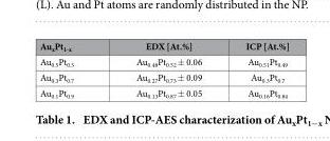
<table><thead><tr><td>Au<sub>x</sub>Pt<sub>1-x</sub></td><td>EDX [At.%]</td><td>ICP [At.%]</td></tr></thead><tbody><tr><td>Au<sub>0.5</sub>Pt<sub>0.5</sub></td><td>Au<sub>0.48</sub>Pt<sub>0.52</sub> ± 0.06</td><td>Au<sub>0.51</sub>Pt<sub>0.49</sub></td></tr><tr><td>Au<sub>0.3</sub>Pt<sub>0.7</sub></td><td>Au<sub>0.27</sub>Pt<sub>0.73</sub> ± 0.09</td><td>Au<sub>0.3</sub>Pt<sub>0.7</sub></td></tr><tr><td>Au<sub>0.1</sub>Pt<sub>0.9</sub></td><td>Au<sub>0.13</sub>Pt<sub>0.87</sub> ± 0.05</td><td>Au<sub>0.16</sub>Pt<sub>0.84</sub></td></tr></tbody></table>